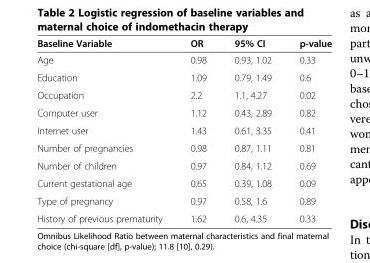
<table><thead><tr><td>Baseline Variable</td><td>OR</td><td>95% CI</td><td>p-value</td></tr></thead><tbody><tr><td>Age</td><td>0.98</td><td>0.93, 1.02</td><td>0.33</td></tr><tr><td>Education</td><td>1.09</td><td>0.79, 1.49</td><td>0.6</td></tr><tr><td>Occupation</td><td>2.2</td><td>1.1, 4.27</td><td>0.02</td></tr><tr><td>Computer user</td><td>1.12</td><td>0.43, 2.89</td><td>0.82</td></tr><tr><td>Internet user</td><td>1.43</td><td>0.61, 3.35</td><td>0.41</td></tr><tr><td>Number of pregnancies</td><td>0.98</td><td>0.87, 1.11</td><td>0.81</td></tr><tr><td>Number of children</td><td>0.97</td><td>0.84, 1.12</td><td>0.69</td></tr><tr><td>Current gestational age</td><td>0.65</td><td>0.39, 1.08</td><td>0.09</td></tr><tr><td>Type of pregnancy</td><td>0.97</td><td>0.58, 1.6</td><td>0.89</td></tr><tr><td>History of previous prematurity</td><td>1.62</td><td>0.6, 4.35</td><td>0.33</td></tr></tbody></table>